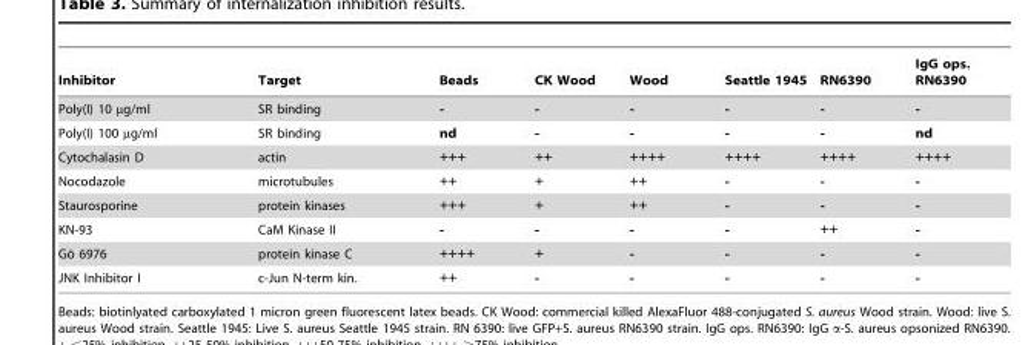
<table><thead><tr><td>Inhibitor</td><td>Target</td><td>Beads</td><td>CK Wood</td><td>Wood</td><td>Seattle 1945</td><td>RN6390</td><td>IgG ops. RN6390</td></tr></thead><tbody><tr><td>Poly(I) 10 µg/ml</td><td>SR binding</td><td>-</td><td>-</td><td>-</td><td>-</td><td>-</td><td>-</td></tr><tr><td>Poly(I) 100 µg/ml</td><td>SR binding</td><td>nd</td><td>-</td><td>-</td><td>-</td><td>-</td><td>nd</td></tr><tr><td>Cytochalasin D</td><td>actin</td><td>+++</td><td>++</td><td>++++</td><td>++++</td><td>++++</td><td>++++</td></tr><tr><td>Nocodazole</td><td>microtubules</td><td>++</td><td>+</td><td>++</td><td>-</td><td>-</td><td>-</td></tr><tr><td>Staurosporine</td><td>protein kinases</td><td>+++</td><td>+</td><td>++</td><td>-</td><td>-</td><td>-</td></tr><tr><td>KN-93</td><td>CaM Kinase II</td><td>-</td><td>-</td><td>-</td><td>-</td><td>++</td><td>-</td></tr><tr><td>Go¨ 6976</td><td>protein kinase C</td><td>++++</td><td>+</td><td>-</td><td>-</td><td>-</td><td>-</td></tr><tr><td>JNK Inhibitor I</td><td>c-Jun N-term kin.</td><td>++</td><td>-</td><td>-</td><td>-</td><td>-</td><td>-</td></tr></tbody></table>